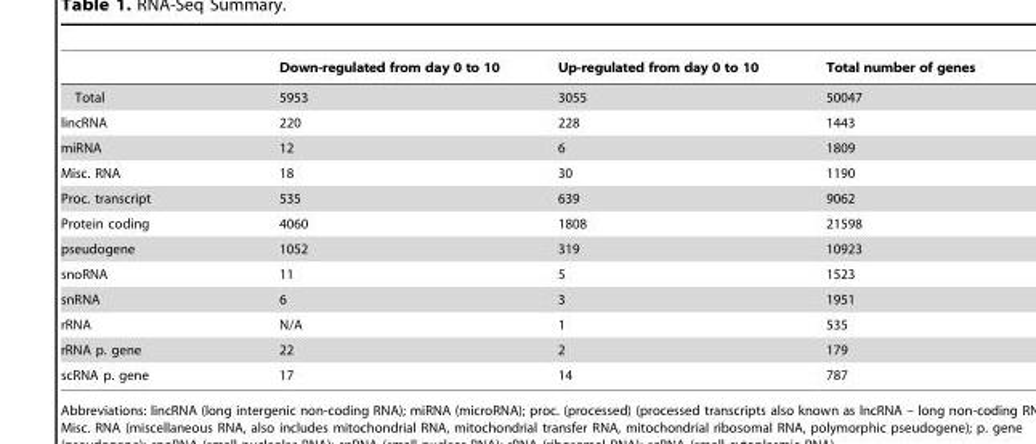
<table><thead><tr><td></td><td>Down-regulated from day 0 to 10</td><td>Up-regulated from day 0 to 10</td><td>Total number of genes</td></tr></thead><tbody><tr><td>Total</td><td>5953</td><td>3055</td><td>50047</td></tr><tr><td>lincRNA</td><td>220</td><td>228</td><td>1443</td></tr><tr><td>miRNA</td><td>12</td><td>6</td><td>1809</td></tr><tr><td>Misc. RNA</td><td>18</td><td>30</td><td>1190</td></tr><tr><td>Proc. transcript</td><td>535</td><td>639</td><td>9062</td></tr><tr><td>Protein coding</td><td>4060</td><td>1808</td><td>21598</td></tr><tr><td>pseudogene</td><td>1052</td><td>319</td><td>10923</td></tr><tr><td>snoRNA</td><td>11</td><td>5</td><td>1523</td></tr><tr><td>snRNA</td><td>6</td><td>3</td><td>1951</td></tr><tr><td>rRNA</td><td>N/A</td><td>1</td><td>535</td></tr><tr><td>rRNA p. gene</td><td>22</td><td>2</td><td>179</td></tr><tr><td>scRNA p. gene</td><td>17</td><td>14</td><td>787</td></tr></tbody></table>